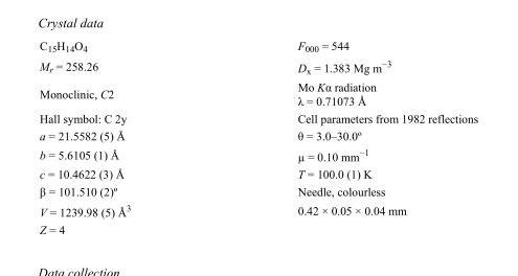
<table><tbody><tr><td>C<sub>15</sub>H<sub>14</sub>O<sub>4</sub></td><td>F<sub>000</sub> = 544</td></tr><tr><td>M<sub>r</sub> = 258.26</td><td>D<sub>x</sub> = 1.383 Mg m<sup>−3</sup></td></tr><tr><td>Monoclinic, C2</td><td>Mo Kα radiation λ = 0.71073 Å</td></tr><tr><td>Hall symbol: C 2y</td><td>Cell parameters from 1982 reflections</td></tr><tr><td>a = 21.5582 (5) Å</td><td>θ = 3.0–30.0º</td></tr><tr><td>b = 5.6105 (1) Å</td><td>µ = 0.10 mm<sup>−1</sup></td></tr><tr><td>c = 10.4622 (3) Å</td><td>T = 100.0 (1) K</td></tr><tr><td>β = 101.510 (2)º</td><td>Needle, colourless</td></tr><tr><td>V = 1239.98 (5) Å<sup>3</sup></td><td>0.42 × 0.05 × 0.04 mm</td></tr><tr><td>Z = 4</td><td></td></tr></tbody></table>